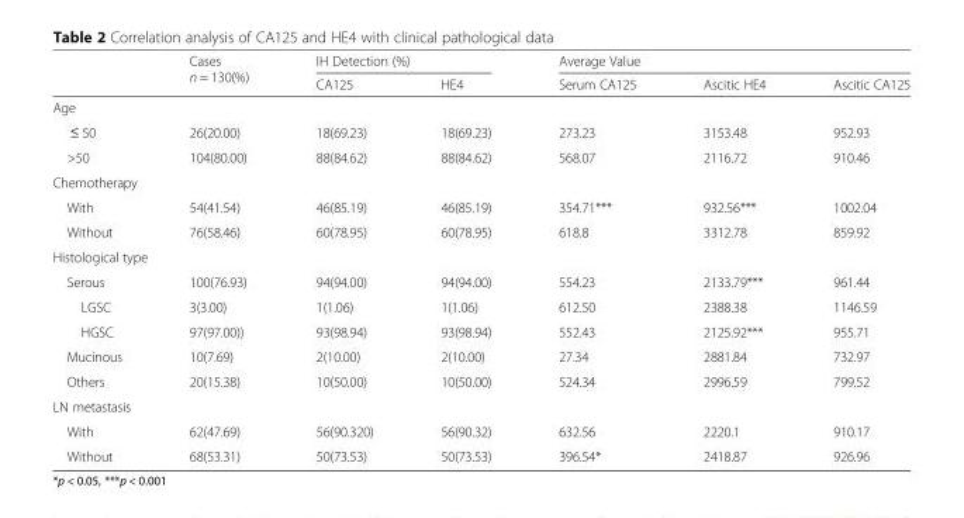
<table><thead><tr><td rowspan="2"></td><td rowspan="2">Cases n = 130(%)</td><td colspan="2">IH Detection (%)</td><td colspan="3">Average Value</td></tr><tr><td>CA125</td><td>HE4</td><td>Serum CA125</td><td>Ascitic HE4</td><td>Ascitic CA125</td></tr></thead><tbody><tr><td colspan="7">Age</td></tr><tr><td>≤ 50</td><td>26(20.00)</td><td>18(69.23)</td><td>18(69.23)</td><td>273.23</td><td>3153.48</td><td>952.93</td></tr><tr><td>&gt;50</td><td>104(80.00)</td><td>88(84.62)</td><td>88(84.62)</td><td>568.07</td><td>2116.72</td><td>910.46</td></tr><tr><td colspan="7">Chemotherapy</td></tr><tr><td>With</td><td>54(41.54)</td><td>46(85.19)</td><td>46(85.19)</td><td>354.71***</td><td>932.56***</td><td>1002.04</td></tr><tr><td>Without</td><td>76(58.46)</td><td>60(78.95)</td><td>60(78.95)</td><td>618.8</td><td>3312.78</td><td>859.92</td></tr><tr><td colspan="7">Histological type</td></tr><tr><td>Serous</td><td>100(76.93)</td><td>94(94.00)</td><td>94(94.00)</td><td>554.23</td><td>2133.79***</td><td>961.44</td></tr><tr><td>LGSC</td><td>3(3.00)</td><td>1(1.06)</td><td>1(1.06)</td><td>612.50</td><td>2388.38</td><td>1146.59</td></tr><tr><td>HGSC</td><td>97(97.00))</td><td>93(98.94)</td><td>93(98.94)</td><td>552.43</td><td>2125.92***</td><td>955.71</td></tr><tr><td>Mucinous</td><td>10(7.69)</td><td>2(10.00)</td><td>2(10.00)</td><td>27.34</td><td>2881.84</td><td>732.97</td></tr><tr><td>Others</td><td>20(15.38)</td><td>10(50.00)</td><td>10(50.00)</td><td>524.34</td><td>2996.59</td><td>799.52</td></tr><tr><td colspan="7">LN metastasis</td></tr><tr><td>With</td><td>62(47.69)</td><td>56(90.320)</td><td>56(90.32)</td><td>632.56</td><td>2220.1</td><td>910.17</td></tr><tr><td>Without</td><td>68(53.31)</td><td>50(73.53)</td><td>50(73.53)</td><td>396.54*</td><td>2418.87</td><td>926.96</td></tr></tbody></table>